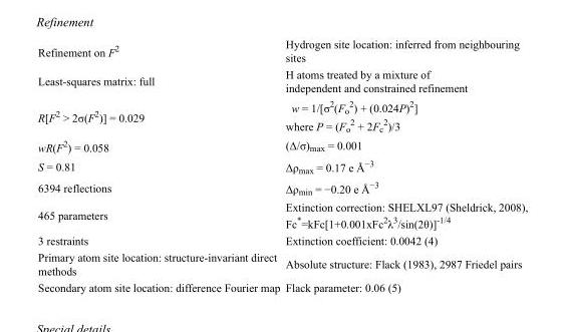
<table><tbody><tr><td>Refinement on F<sup>2</sup></td><td>Hydrogen site location: inferred from neighbouring sites</td></tr><tr><td>Least-squares matrix: full</td><td>H atoms treated by a mixture of independent and constrained refinement</td></tr><tr><td>R[F<sup>2</sup> &gt; 2σ(F<sup>2</sup>)] = 0.029</td><td>w = 1/[σ<sup>2</sup>(F<sub>o</sub> <sup>2</sup>) + (0.024P)<sup>2</sup>] where P = (F<sub>o</sub> <sup>2</sup> + 2F<sub>c</sub> <sup>2</sup>)/3</td></tr><tr><td>wR(F<sup>2</sup>) = 0.058</td><td>(Δ/σ)<sub>max</sub> = 0.001</td></tr><tr><td>S = 0.81</td><td>Δρ<sub>max</sub> = 0.17 e Å<sup>−3</sup></td></tr><tr><td>6394 reflections</td><td>Δρ<sub>min</sub> = −0.20 e Å<sup>−3</sup></td></tr><tr><td>465 parameters</td><td>Extinction correction: SHELXL97 (Sheldrick, 2008), Fc*=kFc[1+0.001xFc<sup>2</sup>λ<sup>3</sup>/sin(2θ)]<sup>-1/4</sup></td></tr><tr><td>3 restraints</td><td>Extinction coefficient: 0.0042 (4)</td></tr><tr><td>Primary atom site location: structure-invariant direct methods</td><td>Absolute structure: Flack (1983), 2987 Friedel pairs</td></tr><tr><td>Secondary atom site location: difference Fourier map</td><td>Flack parameter: 0.06 (5)</td></tr></tbody></table>